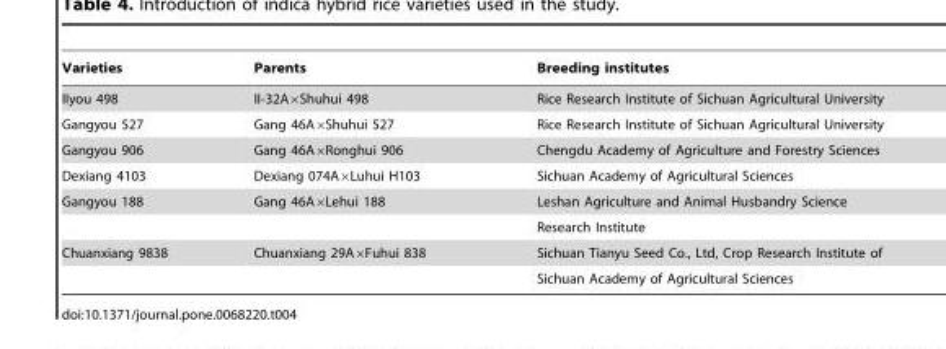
<table><thead><tr><td>Varieties</td><td>Parents</td><td>Breeding institutes</td></tr></thead><tbody><tr><td>IIyou 498</td><td>II-32A×Shuhui 498</td><td>Rice Research Institute of Sichuan Agricultural University</td></tr><tr><td>Gangyou 527</td><td>Gang 46A×Shuhui 527</td><td>Rice Research Institute of Sichuan Agricultural University</td></tr><tr><td>Gangyou 906</td><td>Gang 46A×Ronghui 906</td><td>Chengdu Academy of Agriculture and Forestry Sciences</td></tr><tr><td>Dexiang 4103</td><td>Dexiang 074A×Luhui H103</td><td>Sichuan Academy of Agricultural Sciences</td></tr><tr><td rowspan="2">Gangyou 188</td><td>Gang 46A×Lehui 188</td><td>Leshan Agriculture and Animal Husbandry Science</td></tr><tr><td></td><td>Research Institute</td></tr><tr><td rowspan="2">Chuanxiang 9838</td><td>Chuanxiang 29A×Fuhui 838</td><td>Sichuan Tianyu Seed Co., Ltd, Crop Research Institute of</td></tr><tr><td></td><td>Sichuan Academy of Agricultural Sciences</td></tr></tbody></table>